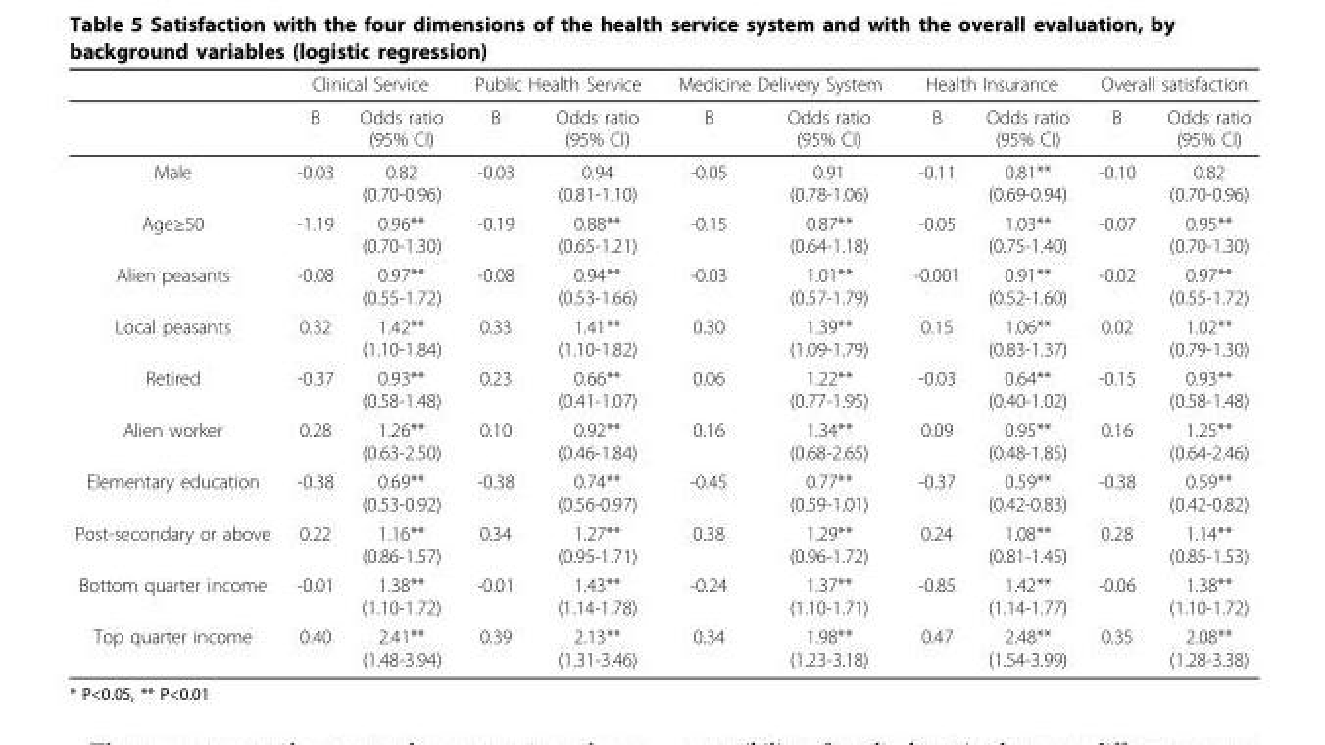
<table><thead><tr><td rowspan="2"></td><td colspan="2">Clinical Service</td><td colspan="2">Public Health Service</td><td colspan="2">Medicine Delivery System</td><td colspan="2">Health Insurance</td><td colspan="2">Overall satisfaction</td></tr><tr><td>B</td><td>Odds ratio (95% CI)</td><td>B</td><td>Odds ratio (95% CI)</td><td>B</td><td>Odds ratio (95% CI)</td><td>B</td><td>Odds ratio (95% CI)</td><td>B</td><td>Odds ratio (95% CI)</td></tr></thead><tbody><tr><td>Male</td><td>-0.03</td><td>0.82 (0.70-0.96)</td><td>-0.03</td><td>0.94 (0.81-1.10)</td><td>-0.05</td><td>0.91 (0.78-1.06)</td><td>-0.11</td><td>0.81** (0.69-0.94)</td><td>-0.10</td><td>0.82 (0.70-0.96)</td></tr><tr><td>Age≥50</td><td>-1.19</td><td>0.96** (0.70-1.30)</td><td>-0.19</td><td>0.88** (0.65-1.21)</td><td>-0.15</td><td>0.87** (0.64-1.18)</td><td>-0.05</td><td>1.03** (0.75-1.40)</td><td>-0.07</td><td>0.95** (0.70-1.30)</td></tr><tr><td>Alien peasants</td><td>-0.08</td><td>0.97** (0.55-1.72)</td><td>-0.08</td><td>0.94** (0.53-1.66)</td><td>-0.03</td><td>1.01** (0.57-1.79)</td><td>-0.001</td><td>0.91** (0.52-1.60)</td><td>-0.02</td><td>0.97** (0.55-1.72)</td></tr><tr><td>Local peasants</td><td>0.32</td><td>1.42** (1.10-1.84)</td><td>0.33</td><td>1.41** (1.10-1.82)</td><td>0.30</td><td>1.39** (1.09-1.79)</td><td>0.15</td><td>1.06** (0.83-1.37)</td><td>0.02</td><td>1.02** (0.79-1.30)</td></tr><tr><td>Retired</td><td>-0.37</td><td>0.93** (0.58-1.48)</td><td>0.23</td><td>0.66** (0.41-1.07)</td><td>0.06</td><td>1.22** (0.77-1.95)</td><td>-0.03</td><td>0.64** (0.40-1.02)</td><td>-0.15</td><td>0.93** (0.58-1.48)</td></tr><tr><td>Alien worker</td><td>0.28</td><td>1.26** (0.63-2.50)</td><td>0.10</td><td>0.92** (0.46-1.84)</td><td>0.16</td><td>1.34** (0.68-2.65)</td><td>0.09</td><td>0.95** (0.48-1.85)</td><td>0.16</td><td>1.25** (0.64-2.46)</td></tr><tr><td>Elementary education</td><td>-0.38</td><td>0.69** (0.53-0.92)</td><td>-0.38</td><td>0.74** (0.56-0.97)</td><td>-0.45</td><td>0.77** (0.59-1.01)</td><td>-0.37</td><td>0.59** (0.42-0.83)</td><td>-0.38</td><td>0.59** (0.42-0.82)</td></tr><tr><td>Post-secondary or above</td><td>0.22</td><td>1.16** (0.86-1.57)</td><td>0.34</td><td>1.27** (0.95-1.71)</td><td>0.38</td><td>1.29** (0.96-1.72)</td><td>0.24</td><td>1.08** (0.81-1.45)</td><td>0.28</td><td>1.14** (0.85-1.53)</td></tr><tr><td>Bottom quarter income</td><td>-0.01</td><td>1.38** (1.10-1.72)</td><td>-0.01</td><td>1.43** (1.14-1.78)</td><td>-0.24</td><td>1.37** (1.10-1.71)</td><td>-0.85</td><td>1.42** (1.14-1.77)</td><td>-0.06</td><td>1.38** (1.10-1.72)</td></tr><tr><td>Top quarter income</td><td>0.40</td><td>2.41** (1.48-3.94)</td><td>0.39</td><td>2.13** (1.31-3.46)</td><td>0.34</td><td>1.98** (1.23-3.18)</td><td>0.47</td><td>2.48** (1.54-3.99)</td><td>0.35</td><td>2.08** (1.28-3.38)</td></tr></tbody></table>